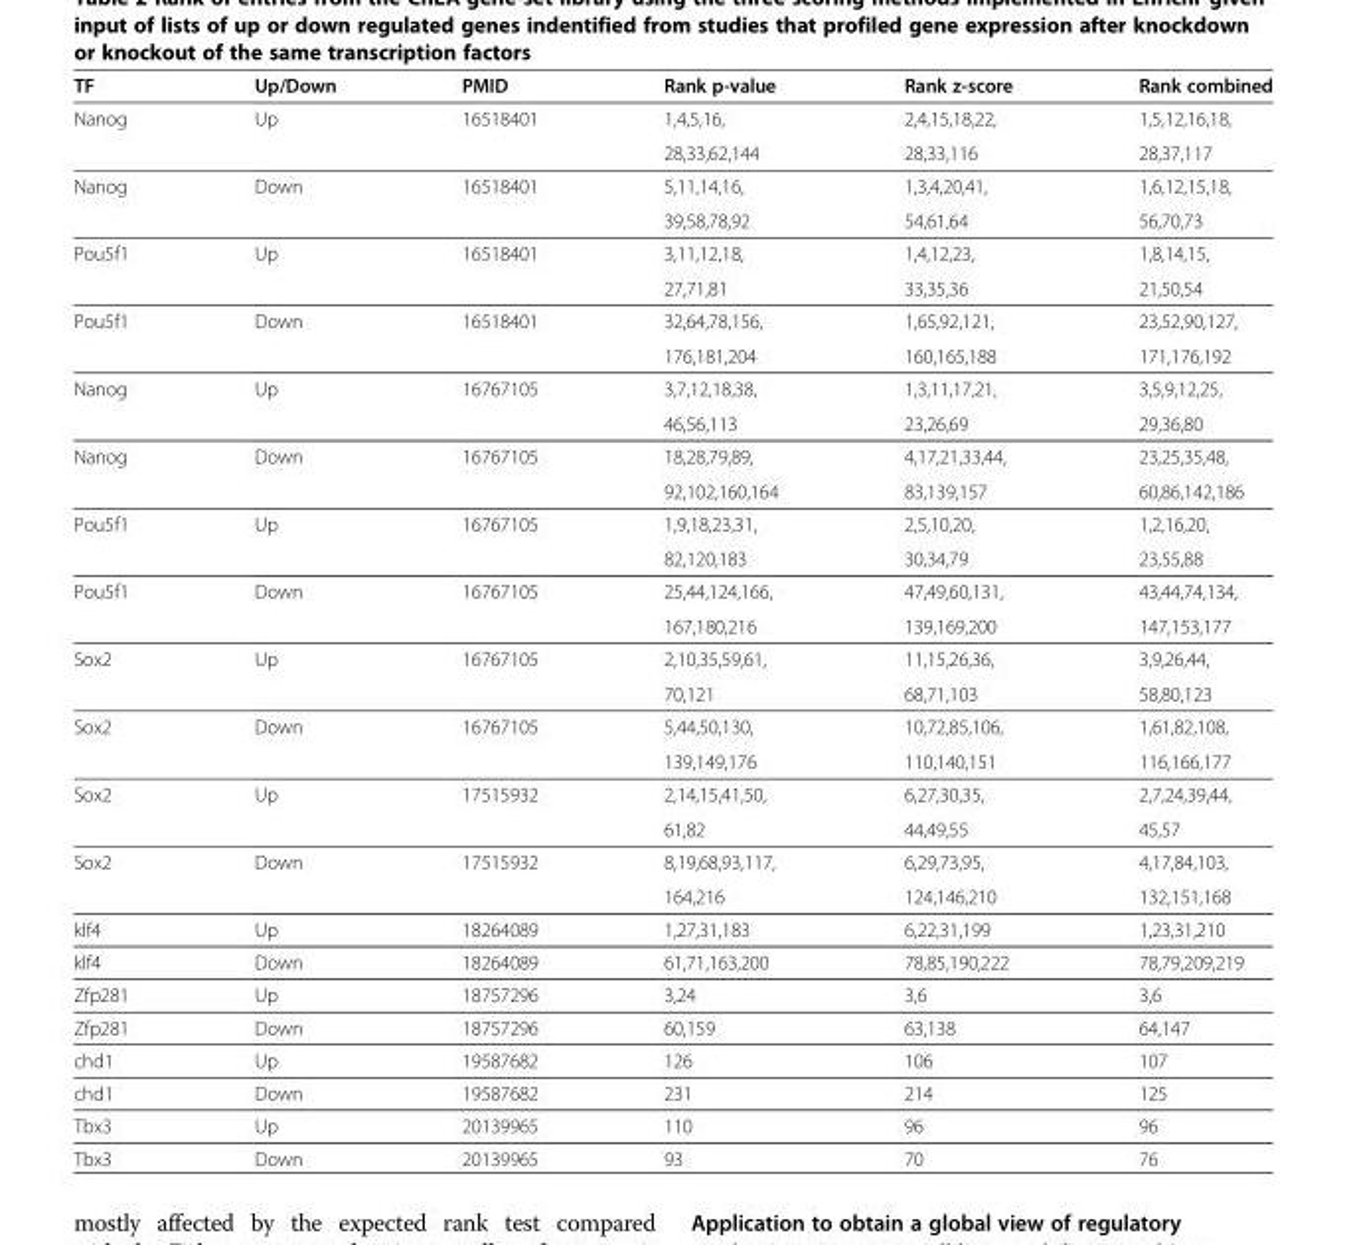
<table><thead><tr><td>TF</td><td>Up/Down</td><td>PMID</td><td>Rank p-value</td><td>Rank z-score</td><td>Rank combined</td></tr></thead><tbody><tr><td rowspan="2">Nanog</td><td>Up</td><td>16518401</td><td>1,4,5,16,</td><td>2,4,15,18,22,</td><td>1,5,12,16,18,</td></tr><tr><td></td><td></td><td>28,33,62,144</td><td>28,33,116</td><td>28,37,117</td></tr><tr><td rowspan="2">Nanog</td><td>Down</td><td>16518401</td><td>5,11,14,16,</td><td>1,3,4,20,41,</td><td>1,6,12,15,18,</td></tr><tr><td></td><td></td><td>39,58,78,92</td><td>54,61,64</td><td>56,70,73</td></tr><tr><td rowspan="2">Pou5f1</td><td>Up</td><td>16518401</td><td>3,11,12,18,</td><td>1,4,12,23,</td><td>1,8,14,15,</td></tr><tr><td></td><td></td><td>27,71,81</td><td>33,35,36</td><td>21,50,54</td></tr><tr><td rowspan="2">Pou5f1</td><td>Down</td><td>16518401</td><td>32,64,78,156,</td><td>1,65,92,121,</td><td>23,52,90,127,</td></tr><tr><td></td><td></td><td>176,181,204</td><td>160,165,188</td><td>171,176,192</td></tr><tr><td rowspan="2">Nanog</td><td>Up</td><td>16767105</td><td>3,7,12,18,38,</td><td>1,3,11,17,21,</td><td>3,5,9,12,25,</td></tr><tr><td></td><td></td><td>46,56,113</td><td>23,26,69</td><td>29,36,80</td></tr><tr><td rowspan="2">Nanog</td><td>Down</td><td>16767105</td><td>18,28,79,89,</td><td>4,17,21,33,44,</td><td>23,25,35,48,</td></tr><tr><td></td><td></td><td>92,102,160,164</td><td>83,139,157</td><td>60,86,142,186</td></tr><tr><td rowspan="2">Pou5f1</td><td>Up</td><td>16767105</td><td>1,9,18,23,31,</td><td>2,5,10,20,</td><td>1,2,16,20,</td></tr><tr><td></td><td></td><td>82,120,183</td><td>30,34,79</td><td>23,55,88</td></tr><tr><td rowspan="2">Pou5f1</td><td>Down</td><td>16767105</td><td>25,44,124,166,</td><td>47,49,60,131,</td><td>43,44,74,134,</td></tr><tr><td></td><td></td><td>167,180,216</td><td>139,169,200</td><td>147,153,177</td></tr><tr><td rowspan="2">Sox2</td><td>Up</td><td>16767105</td><td>2,10,35,59,61,</td><td>11,15,26,36,</td><td>3,9,26,44,</td></tr><tr><td></td><td></td><td>70,121</td><td>68,71,103</td><td>58,80,123</td></tr><tr><td rowspan="2">Sox2</td><td>Down</td><td>16767105</td><td>5,44,50,130,</td><td>10,72,85,106,</td><td>1,61,82,108,</td></tr><tr><td></td><td></td><td>139,149,176</td><td>110,140,151</td><td>116,166,177</td></tr><tr><td rowspan="2">Sox2</td><td>Up</td><td>17515932</td><td>2,14,15,41,50,</td><td>6,27,30,35,</td><td>2,7,24,39,44,</td></tr><tr><td></td><td></td><td>61,82</td><td>44,49,55</td><td>45,57</td></tr><tr><td rowspan="2">Sox2</td><td>Down</td><td>17515932</td><td>8,19,68,93,117,</td><td>6,29,73,95,</td><td>4,17,84,103,</td></tr><tr><td></td><td></td><td>164,216</td><td>124,146,210</td><td>132,151,168</td></tr><tr><td>klf4</td><td>Up</td><td>18264089</td><td>1,27,31,183</td><td>6,22,31,199</td><td>1,23,31,210</td></tr><tr><td>klf4</td><td>Down</td><td>18264089</td><td>61,71,163,200</td><td>78,85,190,222</td><td>78,79,209,219</td></tr><tr><td>Zfp281</td><td>Up</td><td>18757296</td><td>3,24</td><td>3,6</td><td>3,6</td></tr><tr><td>Zfp281</td><td>Down</td><td>18757296</td><td>60,159</td><td>63,138</td><td>64,147</td></tr><tr><td>chd1</td><td>Up</td><td>19587682</td><td>126</td><td>106</td><td>107</td></tr><tr><td>chd1</td><td>Down</td><td>19587682</td><td>231</td><td>214</td><td>125</td></tr><tr><td>Tbx3</td><td>Up</td><td>20139965</td><td>110</td><td>96</td><td>96</td></tr><tr><td>Tbx3</td><td>Down</td><td>20139965</td><td>93</td><td>70</td><td>76</td></tr></tbody></table>